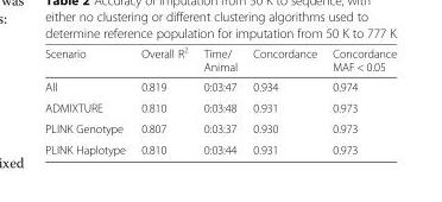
<table><thead><tr><td>Scenario</td><td>Overall R<sup>2</sup></td><td>Time/ Animal</td><td>Concordance</td><td>Concordance MAF &lt; 0.05</td></tr></thead><tbody><tr><td>All</td><td>0.819</td><td>0:03:47</td><td>0.934</td><td>0.974</td></tr><tr><td>ADMIXTURE</td><td>0.810</td><td>0:03:48</td><td>0.931</td><td>0.973</td></tr><tr><td>PLINK Genotype</td><td>0.807</td><td>0:03:37</td><td>0.930</td><td>0.973</td></tr><tr><td>PLINK Haplotype</td><td>0.810</td><td>0:03:44</td><td>0.931</td><td>0.973</td></tr></tbody></table>